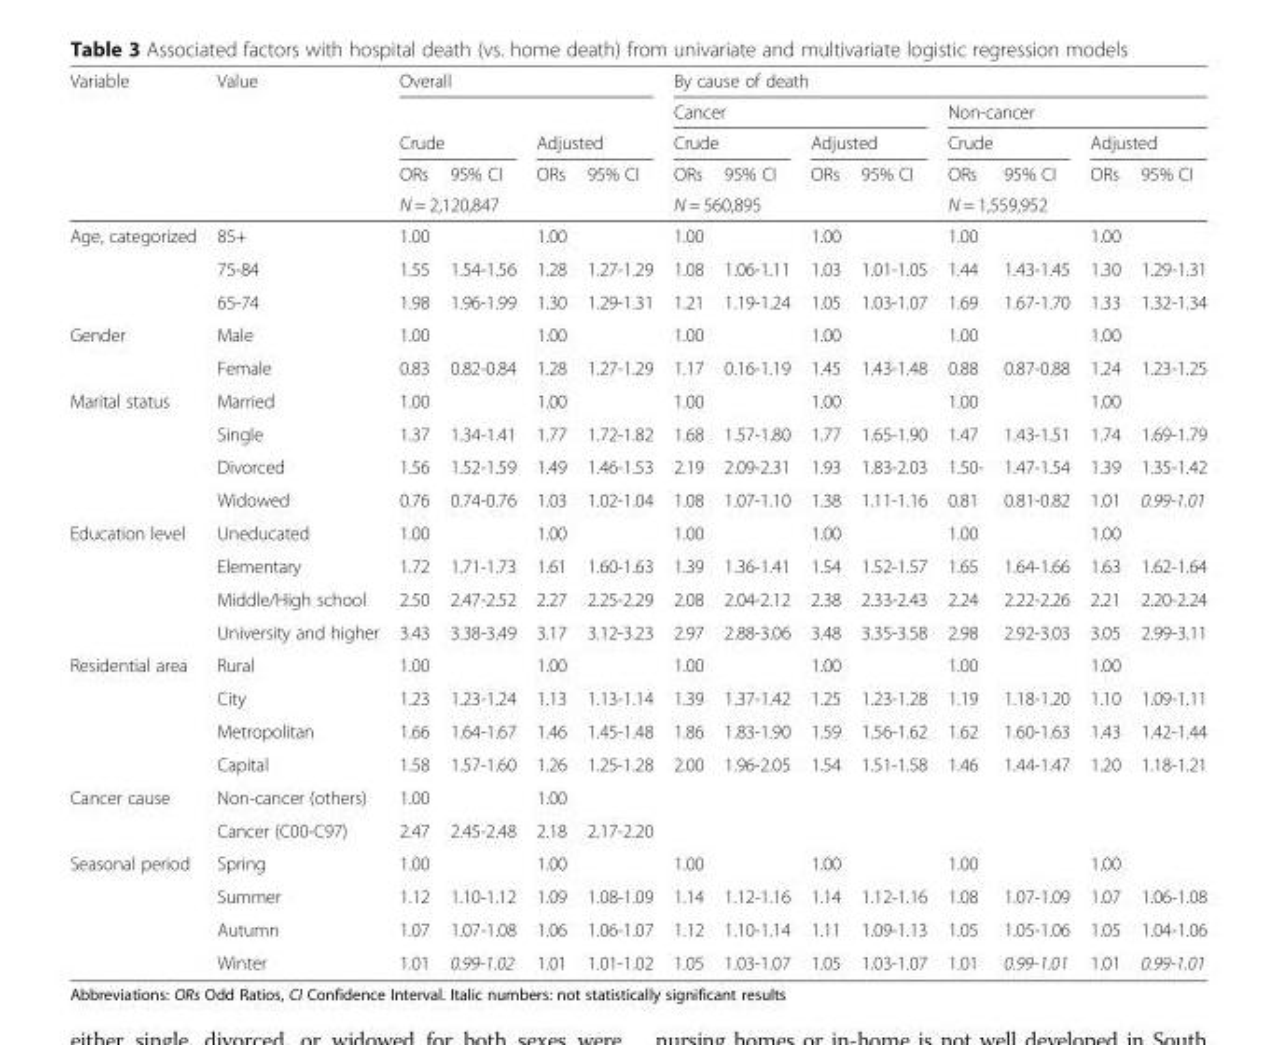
<table><thead><tr><td rowspan="5">Variable</td><td rowspan="5">Value</td><td colspan="4">Overall</td><td colspan="8">By cause of death</td></tr><tr><td></td><td></td><td></td><td></td><td colspan="4">Cancer</td><td colspan="4">Non-cancer</td></tr><tr><td colspan="2">Crude</td><td colspan="2">Adjusted</td><td colspan="2">Crude</td><td colspan="2">Adjusted</td><td colspan="2">Crude</td><td colspan="2">Adjusted</td></tr><tr><td>ORs</td><td>95% CI</td><td>ORs</td><td>95% CI</td><td>ORs</td><td>95% CI</td><td>ORs</td><td>95% CI</td><td>ORs</td><td>95% CI</td><td>ORs</td><td>95% CI</td></tr><tr><td colspan="4">N = 2,120,847</td><td colspan="4">N = 560,895</td><td colspan="4">N = 1,559,952</td></tr></thead><tbody><tr><td rowspan="3">Age, categorized</td><td>85+</td><td>1.00</td><td></td><td>1.00</td><td></td><td>1.00</td><td></td><td>1.00</td><td></td><td>1.00</td><td></td><td>1.00</td><td></td></tr><tr><td>75-84</td><td>1.55</td><td>1.54-1.56</td><td>1.28</td><td>1.27-1.29</td><td>1.08</td><td>1.06-1.11</td><td>1.03</td><td>1.01-1.05</td><td>1.44</td><td>1.43-1.45</td><td>1.30</td><td>1.29-1.31</td></tr><tr><td>65-74</td><td>1.98</td><td>1.96-1.99</td><td>1.30</td><td>1.29-1.31</td><td>1.21</td><td>1.19-1.24</td><td>1.05</td><td>1.03-1.07</td><td>1.69</td><td>1.67-1.70</td><td>1.33</td><td>1.32-1.34</td></tr><tr><td rowspan="2">Gender</td><td>Male</td><td>1.00</td><td></td><td>1.00</td><td></td><td>1.00</td><td></td><td>1.00</td><td></td><td>1.00</td><td></td><td>1.00</td><td></td></tr><tr><td>Female</td><td>0.83</td><td>0.82-0.84</td><td>1.28</td><td>1.27-1.29</td><td>1.17</td><td>0.16-1.19</td><td>1.45</td><td>1.43-1.48</td><td>0.88</td><td>0.87-0.88</td><td>1.24</td><td>1.23-1.25</td></tr><tr><td rowspan="4">Marital status</td><td>Married</td><td>1.00</td><td></td><td>1.00</td><td></td><td>1.00</td><td></td><td>1.00</td><td></td><td>1.00</td><td></td><td>1.00</td><td></td></tr><tr><td>Single</td><td>1.37</td><td>1.34-1.41</td><td>1.77</td><td>1.72-1.82</td><td>1.68</td><td>1.57-1.80</td><td>1.77</td><td>1.65-1.90</td><td>1.47</td><td>1.43-1.51</td><td>1.74</td><td>1.69-1.79</td></tr><tr><td>Divorced</td><td>1.56</td><td>1.52-1.59</td><td>1.49</td><td>1.46-1.53</td><td>2.19</td><td>2.09-2.31</td><td>1.93</td><td>1.83-2.03</td><td>1.50-</td><td>1.47-1.54</td><td>1.39</td><td>1.35-1.42</td></tr><tr><td>Widowed</td><td>0.76</td><td>0.74-0.76</td><td>1.03</td><td>1.02-1.04</td><td>1.08</td><td>1.07-1.10</td><td>1.38</td><td>1.11-1.16</td><td>0.81</td><td>0.81-0.82</td><td>1.01</td><td>0.99-1.01</td></tr><tr><td rowspan="4">Education level</td><td>Uneducated</td><td>1.00</td><td></td><td>1.00</td><td></td><td>1.00</td><td></td><td>1.00</td><td></td><td>1.00</td><td></td><td>1.00</td><td></td></tr><tr><td>Elementary</td><td>1.72</td><td>1.71-1.73</td><td>1.61</td><td>1.60-1.63</td><td>1.39</td><td>1.36-1.41</td><td>1.54</td><td>1.52-1.57</td><td>1.65</td><td>1.64-1.66</td><td>1.63</td><td>1.62-1.64</td></tr><tr><td>Middle/High school</td><td>2.50</td><td>2.47-2.52</td><td>2.27</td><td>2.25-2.29</td><td>2.08</td><td>2.04-2.12</td><td>2.38</td><td>2.33-2.43</td><td>2.24</td><td>2.22-2.26</td><td>2.21</td><td>2.20-2.24</td></tr><tr><td>University and higher</td><td>3.43</td><td>3.38-3.49</td><td>3.17</td><td>3.12-3.23</td><td>2.97</td><td>2.88-3.06</td><td>3.48</td><td>3.35-3.58</td><td>2.98</td><td>2.92-3.03</td><td>3.05</td><td>2.99-3.11</td></tr><tr><td rowspan="4">Residential area</td><td>Rural</td><td>1.00</td><td></td><td>1.00</td><td></td><td>1.00</td><td></td><td>1.00</td><td></td><td>1.00</td><td></td><td>1.00</td><td></td></tr><tr><td>City</td><td>1.23</td><td>1.23-1.24</td><td>1.13</td><td>1.13-1.14</td><td>1.39</td><td>1.37-1.42</td><td>1.25</td><td>1.23-1.28</td><td>1.19</td><td>1.18-1.20</td><td>1.10</td><td>1.09-1.11</td></tr><tr><td>Metropolitan</td><td>1.66</td><td>1.64-1.67</td><td>1.46</td><td>1.45-1.48</td><td>1.86</td><td>1.83-1.90</td><td>1.59</td><td>1.56-1.62</td><td>1.62</td><td>1.60-1.63</td><td>1.43</td><td>1.42-1.44</td></tr><tr><td>Capital</td><td>1.58</td><td>1.57-1.60</td><td>1.26</td><td>1.25-1.28</td><td>2.00</td><td>1.96-2.05</td><td>1.54</td><td>1.51-1.58</td><td>1.46</td><td>1.44-1.47</td><td>1.20</td><td>1.18-1.21</td></tr><tr><td rowspan="2">Cancer cause</td><td>Non-cancer (others)</td><td>1.00</td><td></td><td>1.00</td><td></td><td></td><td></td><td></td><td></td><td></td><td></td><td></td><td></td></tr><tr><td>Cancer (C00-C97)</td><td>2.47</td><td>2.45-2.48</td><td>2.18</td><td>2.17-2.20</td><td></td><td></td><td></td><td></td><td></td><td></td><td></td><td></td></tr><tr><td rowspan="4">Seasonal period</td><td>Spring</td><td>1.00</td><td></td><td>1.00</td><td></td><td>1.00</td><td></td><td>1.00</td><td></td><td>1.00</td><td></td><td>1.00</td><td></td></tr><tr><td>Summer</td><td>1.12</td><td>1.10-1.12</td><td>1.09</td><td>1.08-1.09</td><td>1.14</td><td>1.12-1.16</td><td>1.14</td><td>1.12-1.16</td><td>1.08</td><td>1.07-1.09</td><td>1.07</td><td>1.06-1.08</td></tr><tr><td>Autumn</td><td>1.07</td><td>1.07-1.08</td><td>1.06</td><td>1.06-1.07</td><td>1.12</td><td>1.10-1.14</td><td>1.11</td><td>1.09-1.13</td><td>1.05</td><td>1.05-1.06</td><td>1.05</td><td>1.04-1.06</td></tr><tr><td>Winter</td><td>1.01</td><td>0.99-1.02</td><td>1.01</td><td>1.01-1.02</td><td>1.05</td><td>1.03-1.07</td><td>1.05</td><td>1.03-1.07</td><td>1.01</td><td>0.99-1.01</td><td>1.01</td><td>0.99-1.01</td></tr></tbody></table>